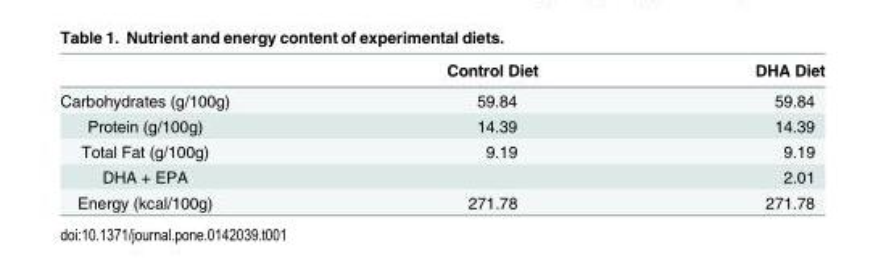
<table><thead><tr><td></td><td>Control Diet</td><td>DHA Diet</td></tr></thead><tbody><tr><td>Carbohydrates (g/100g)</td><td>59.84</td><td>59.84</td></tr><tr><td>Protein (g/100g)</td><td>14.39</td><td>14.39</td></tr><tr><td>Total Fat (g/100g)</td><td>9.19</td><td>9.19</td></tr><tr><td>DHA + EPA</td><td></td><td>2.01</td></tr><tr><td>Energy (kcal/100g)</td><td>271.78</td><td>271.78</td></tr></tbody></table>